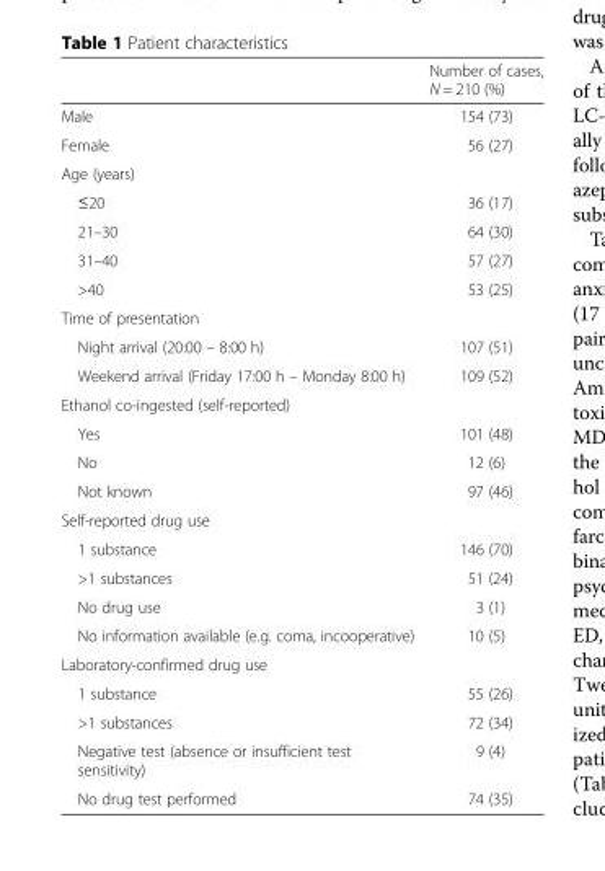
<table><thead><tr><td></td><td>Number of cases, N = 210 (%)</td></tr></thead><tbody><tr><td>Male</td><td>154 (73)</td></tr><tr><td>Female</td><td>56 (27)</td></tr><tr><td colspan="2">Age (years)</td></tr><tr><td>≤20</td><td>36 (17)</td></tr><tr><td>21–30</td><td>64 (30)</td></tr><tr><td>31–40</td><td>57 (27)</td></tr><tr><td>&gt;40</td><td>53 (25)</td></tr><tr><td colspan="2">Time of presentation</td></tr><tr><td>Night arrival (20:00 – 8:00 h)</td><td>107 (51)</td></tr><tr><td>Weekend arrival (Friday 17:00 h – Monday 8:00 h)</td><td>109 (52)</td></tr><tr><td colspan="2">Ethanol co-ingested (self-reported)</td></tr><tr><td>Yes</td><td>101 (48)</td></tr><tr><td>No</td><td>12 (6)</td></tr><tr><td>Not known</td><td>97 (46)</td></tr><tr><td colspan="2">Self-reported drug use</td></tr><tr><td>1 substance</td><td>146 (70)</td></tr><tr><td>&gt;1 substances</td><td>51 (24)</td></tr><tr><td>No drug use</td><td>3 (1)</td></tr><tr><td>No information available (e.g. coma, incooperative)</td><td>10 (5)</td></tr><tr><td colspan="2">Laboratory-confirmed drug use</td></tr><tr><td>1 substance</td><td>55 (26)</td></tr><tr><td>&gt;1 substances</td><td>72 (34)</td></tr><tr><td>Negative test (absence or insufficient test sensitivity)</td><td>9 (4)</td></tr><tr><td>No drug test performed</td><td>74 (35)</td></tr></tbody></table>